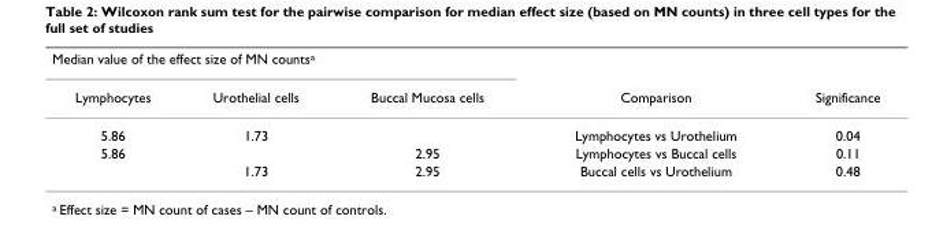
<table><thead><tr><td colspan="3">Median value of the effect size of MN counts<sup>a</sup></td><td rowspan="2">Comparison</td><td rowspan="2">Significance</td></tr><tr><td>Lymphocytes</td><td>Urothelial cells</td><td>Buccal Mucosa cells</td></tr></thead><tbody><tr><td>5.86</td><td>1.73</td><td></td><td>Lymphocytes vs Urothelium</td><td>0.04</td></tr><tr><td rowspan="2">5.86</td><td></td><td>2.95</td><td>Lymphocytes vs Buccal cells</td><td>0.11</td></tr><tr><td>1.73</td><td>2.95</td><td>Buccal cells vs Urothelium</td><td>0.48</td></tr></tbody></table>